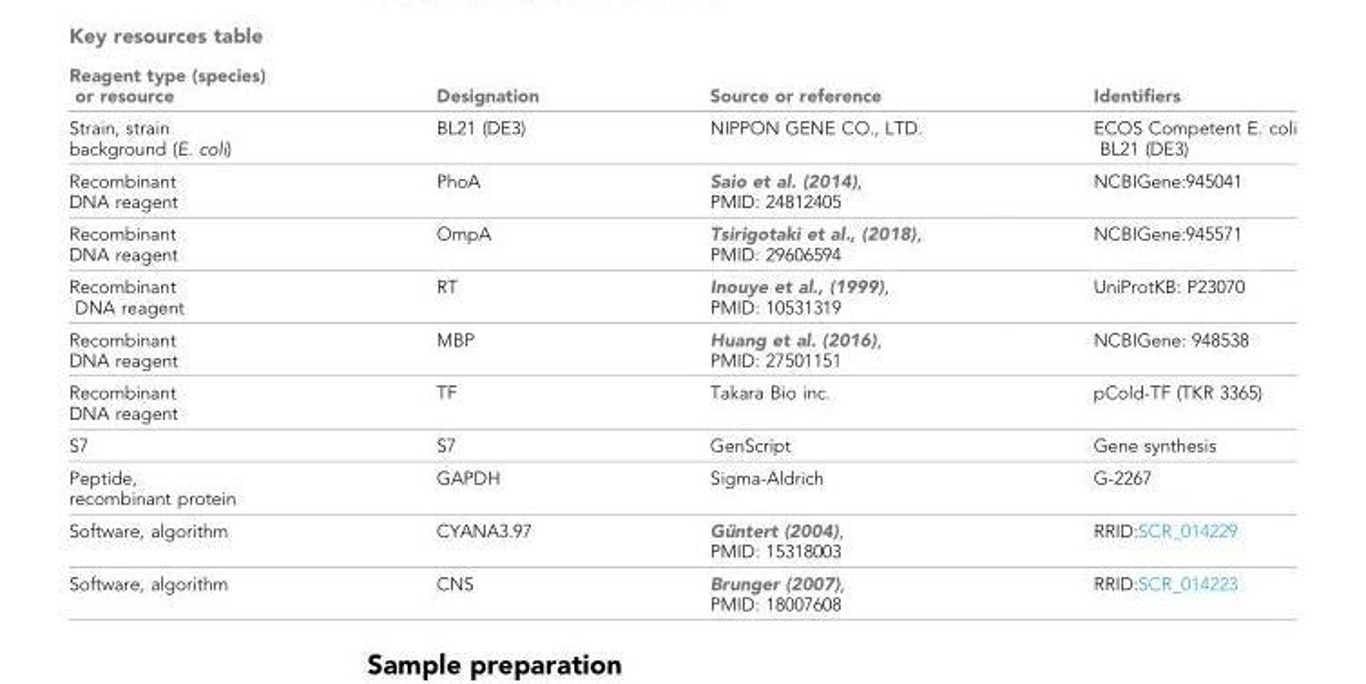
<table><thead><tr><td>Reagent type (species) or resource</td><td>Designation</td><td>Source or reference</td><td>Identifiers</td></tr></thead><tbody><tr><td>Strain, strain background (E. coli)</td><td>BL21 (DE3)</td><td>NIPPON GENE CO., LTD.</td><td>ECOS Competent E. coli BL21 (DE3)</td></tr><tr><td>Recombinant DNA reagent</td><td>PhoA</td><td>Saio et al. (2014), PMID: 24812405</td><td>NCBIGene:945041</td></tr><tr><td>Recombinant DNA reagent</td><td>OmpA</td><td>Tsirigotaki et al., (2018), PMID: 29606594</td><td>NCBIGene:945571</td></tr><tr><td>Recombinant DNA reagent</td><td>RT</td><td>Inouye et al., (1999), PMID: 10531319</td><td>UniProtKB: P23070</td></tr><tr><td>Recombinant DNA reagent</td><td>MBP</td><td>Huang et al. (2016), PMID: 27501151</td><td>NCBIGene: 948538</td></tr><tr><td>Recombinant DNA reagent</td><td>TF</td><td>Takara Bio inc.</td><td>pCold-TF (TKR 3365)</td></tr><tr><td>S7</td><td>S7</td><td>GenScript</td><td>Gene synthesis</td></tr><tr><td>Peptide, recombinant protein</td><td>GAPDH</td><td>Sigma-Aldrich</td><td>G-2267</td></tr><tr><td>Software, algorithm</td><td>CYANA3.97</td><td>Gu¨ntert (2004), PMID: 15318003</td><td>RRID:SCR_014229</td></tr><tr><td>Software, algorithm</td><td>CNS</td><td>Brunger (2007), PMID: 18007608</td><td>RRID:SCR_014223</td></tr></tbody></table>